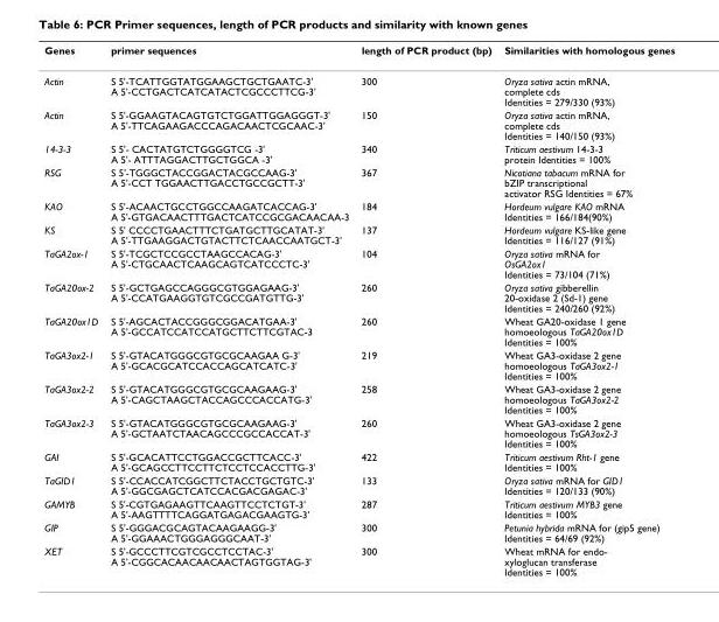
<table><thead><tr><td>Genes</td><td>primer sequences</td><td>length of PCR product (bp)</td><td>Similarities with homologous genes</td></tr></thead><tbody><tr><td>Actin</td><td>S 5&#x27;-TCATTGGTATGGAAGCTGCTGAATC-3&#x27; A 5&#x27;-CCTGACTCATCATACTCGCCCTTCG-3&#x27;</td><td>300</td><td>Oryza sativa actin mRNA, complete cds Identities = 279/330 (93%)</td></tr><tr><td>Actin</td><td>S 5&#x27;-GGAAGTACAGTGTCTGGATTGGAGGGT-3&#x27; A 5&#x27;-TTCAGAAGACCCAGACAACTCGCAAC-3&#x27;</td><td>150</td><td>Oryza sativa actin mRNA, complete cds Identities = 140/150 (93%)</td></tr><tr><td>14-3-3</td><td>S 5&#x27;- CACTATGTCTGGGGTCG -3&#x27; A 5&#x27;- ATTTAGGACTTGCTGGCA -3&#x27;</td><td>340</td><td>Triticum aestivum 14-3-3 protein Identities = 100%</td></tr><tr><td>RSG</td><td>S 5&#x27;-TGGGCTACCGGACTACGCCAAG-3&#x27; A 5&#x27;-CCT TGGAACTTGACCTGCCGCTT-3&#x27;</td><td>367</td><td>Nicotiana tabacum mRNA for bZIP transcriptional activator RSG Identities = 67%</td></tr><tr><td>KAO</td><td>S 5&#x27;-ACAACTGCCTGGCCAAGATCACCAG-3&#x27; A 5&#x27;-GTGACAACTTTGACTCATCCGCGACAACAA-3</td><td>184</td><td>Hordeum vulgare KAO mRNA Identities = 166/184(90%)</td></tr><tr><td>KS</td><td>S 5&#x27; CCCCTGAACTTTCTGATGCTTGCATAT-3&#x27; A 5&#x27;-TTGAAGGACTGTACTTCTCAACCAATGCT-3&#x27;</td><td>137</td><td>Hordeum vulgare KS-like gene Identities = 116/127 (91%)</td></tr><tr><td>TaGA2ox-1</td><td>S 5&#x27;-TCGCTCCGCCTAAGCCACAG-3&#x27; A 5&#x27;-CTGCAACTCAAGCAGTCATCCCTC-3&#x27;</td><td>104</td><td>Oryza sativa mRNA for OsGA2ox1 Identities = 73/104 (71%)</td></tr><tr><td>TaGA20ox-2</td><td>S 5&#x27;-GCTGAGCCAGGGCGTGGAGAAG-3&#x27; A 5&#x27;-CCATGAAGGTGTCGCCGATGTTG-3&#x27;</td><td>260</td><td>Oryza sativa gibberellin 20-oxidase 2 (Sd-1) gene Identities = 240/260 (92%)</td></tr><tr><td>TaGA20ox1D</td><td>S 5&#x27;-AGCACTACCGGGCGGACATGAA-3&#x27; A 5&#x27;-GCCATCCATCCATGCTTCTTCGTAC-3</td><td>260</td><td>Wheat GA20-oxidase 1 gene homoeologous TaGA20ox1D Identities = 100%</td></tr><tr><td>TaGA3ox2-1</td><td>S 5&#x27;-GTACATGGGCGTGCGCAAGAA G-3&#x27; A 5&#x27;-GCACGCATCCACCAGCATCATC-3&#x27;</td><td>219</td><td>Wheat GA3-oxidase 2 gene homoeologous TaGA3ox2-1 Identities = 100%</td></tr><tr><td>TaGA3ox2-2</td><td>S 5&#x27;-GTACATGGGCGTGCGCAAGAAG-3&#x27; A 5&#x27;-CAGCTAAGCTACCAGCCCACCATG-3&#x27;</td><td>258</td><td>Wheat GA3-oxidase 2 gene homoeologous TaGA3ox2-2 Identities = 100%</td></tr><tr><td>TaGA3ox2-3</td><td>S 5&#x27;-GTACATGGGCGTGCGCAAGAAG-3&#x27; A 5&#x27;-GCTAATCTAACAGCCCGCCACCAT-3&#x27;</td><td>260</td><td>Wheat GA3-oxidase 2 gene homoeologous TsGA3ox2-3 Identities = 100%</td></tr><tr><td>GAI</td><td>S 5&#x27;-GCACATTCCTGGACCGCTTCACC-3&#x27; A 5&#x27;-GCAGCCTTCCTTCTCCTCCACCTTG-3&#x27;</td><td>422</td><td>Triticum aestivum Rht-1 gene Identities = 100%</td></tr><tr><td>TaGID1</td><td>S 5&#x27;-CCACCATCGGCTTCTACCTGCTGTC-3&#x27; A 5&#x27;-GGCGAGCTCATCCACGACGAGAC-3&#x27;</td><td>133</td><td>Oryza sativa mRNA for GID1 Identities = 120/133 (90%)</td></tr><tr><td>GAMYB</td><td>S 5&#x27;-CGTGAGAAGTTCAAGTTCCTCTGT-3&#x27; A 5&#x27;-AAGTTTTCAGGATGAGACGAAGTG-3&#x27;</td><td>287</td><td>Triticum aestivum MYB3 gene Identities = 100%</td></tr><tr><td>GIP</td><td>S 5&#x27;-GGGACGCAGTACAAGAAGG-3&#x27; A 5&#x27;-GGAAACTGGGAGGGCAAT-3&#x27;</td><td>300</td><td>Petunia hybrida mRNA for (gip5 gene) Identities = 64/69 (92%)</td></tr><tr><td>XET</td><td>S 5&#x27;-GCCCTTCGTCGCCTCCTAC-3&#x27; A 5&#x27;-CGGCACAACAACAACTAGTGGTAG-3&#x27;</td><td>300</td><td>Wheat mRNA for endo- xyloglucan transferase Identities = 100%</td></tr></tbody></table>